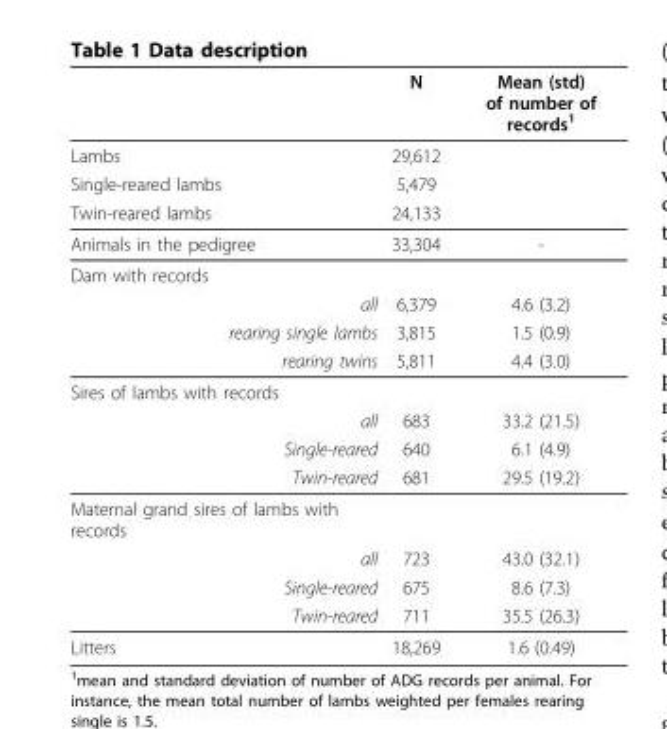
<table><thead><tr><td></td><td>N</td><td>Mean (std) of number of records<sup>1</sup></td></tr></thead><tbody><tr><td>Lambs</td><td>29,612</td><td></td></tr><tr><td>Single-reared lambs</td><td>5,479</td><td></td></tr><tr><td>Twin-reared lambs</td><td>24,133</td><td></td></tr><tr><td>Animals in the pedigree</td><td>33,304</td><td>-</td></tr><tr><td colspan="3">Dam with records</td></tr><tr><td>all</td><td>6,379</td><td>4.6 (3.2)</td></tr><tr><td>rearing single lambs</td><td>3,815</td><td>1.5 (0.9)</td></tr><tr><td>rearing twins</td><td>5,811</td><td>4.4 (3.0)</td></tr><tr><td colspan="3">Sires of lambs with records</td></tr><tr><td>all</td><td>683</td><td>33.2 (21.5)</td></tr><tr><td>Single-reared</td><td>640</td><td>6.1 (4.9)</td></tr><tr><td>Twin-reared</td><td>681</td><td>29.5 (19.2)</td></tr><tr><td colspan="3">Maternal grand sires of lambs with records</td></tr><tr><td>all</td><td>723</td><td>43.0 (32.1)</td></tr><tr><td>Single-reared</td><td>675</td><td>8.6 (7.3)</td></tr><tr><td>Twin-reared</td><td>711</td><td>35.5 (26.3)</td></tr><tr><td>Litters</td><td>18,269</td><td>1.6 (0.49)</td></tr></tbody></table>